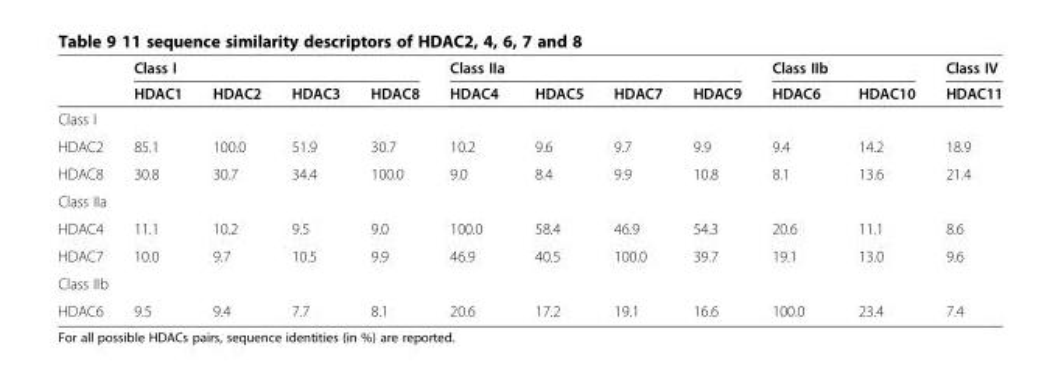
<table><thead><tr><td rowspan="2"></td><td rowspan="2">Class I HDAC1</td><td rowspan="2">HDAC2</td><td rowspan="2">HDAC3</td><td rowspan="2">HDAC8</td><td rowspan="2">Class IIa HDAC4</td><td rowspan="2">HDAC5</td><td rowspan="2">HDAC7</td><td rowspan="2">HDAC9</td><td rowspan="2">Class IIb HDAC6</td><td rowspan="2">HDAC10</td><td rowspan="2">Class IV HDAC11</td></tr><tr></tr></thead><tbody><tr><td colspan="12">Class I</td></tr><tr><td>HDAC2</td><td>85.1</td><td>100.0</td><td>51.9</td><td>30.7</td><td>10.2</td><td>9.6</td><td>9.7</td><td>9.9</td><td>9.4</td><td>14.2</td><td>18.9</td></tr><tr><td>HDAC8</td><td>30.8</td><td>30.7</td><td>34.4</td><td>100.0</td><td>9.0</td><td>8.4</td><td>9.9</td><td>10.8</td><td>8.1</td><td>13.6</td><td>21.4</td></tr><tr><td colspan="12">Class IIa</td></tr><tr><td>HDAC4</td><td>11.1</td><td>10.2</td><td>9.5</td><td>9.0</td><td>100.0</td><td>58.4</td><td>46.9</td><td>54.3</td><td>20.6</td><td>11.1</td><td>8.6</td></tr><tr><td>HDAC7</td><td>10.0</td><td>9.7</td><td>10.5</td><td>9.9</td><td>46.9</td><td>40.5</td><td>100.0</td><td>39.7</td><td>19.1</td><td>13.0</td><td>9.6</td></tr><tr><td colspan="12">Class IIb</td></tr><tr><td>HDAC6</td><td>9.5</td><td>9.4</td><td>7.7</td><td>8.1</td><td>20.6</td><td>17.2</td><td>19.1</td><td>16.6</td><td>100.0</td><td>23.4</td><td>7.4</td></tr></tbody></table>